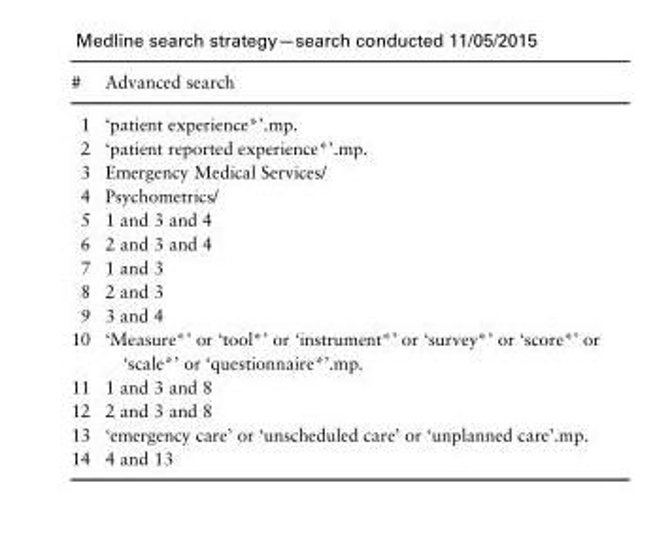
<table><thead><tr><td>#</td><td>Advanced search</td></tr></thead><tbody><tr><td>1</td><td>‘patient experience*’.mp.</td></tr><tr><td>2</td><td>‘patient reported experience*’.mp.</td></tr><tr><td>3</td><td>Emergency Medical Services/</td></tr><tr><td>4</td><td>Psychometrics/</td></tr><tr><td>5</td><td>1 and 3 and 4</td></tr><tr><td>6</td><td>2 and 3 and 4</td></tr><tr><td>7</td><td>1 and 3</td></tr><tr><td>8</td><td>2 and 3</td></tr><tr><td>9</td><td>3 and 4</td></tr><tr><td>10</td><td>‘Measure*’ or ‘tool*’ or ‘instrument*’ or ‘survey*’ or ‘score*’ or ‘scale*’ or ‘questionnaire*’.mp.</td></tr><tr><td>11</td><td>1 and 3 and 8</td></tr><tr><td>12</td><td>2 and 3 and 8</td></tr><tr><td>13</td><td>‘emergency care’ or ‘unscheduled care’ or ‘unplanned care’.mp.</td></tr><tr><td>14</td><td>4 and 13</td></tr></tbody></table>